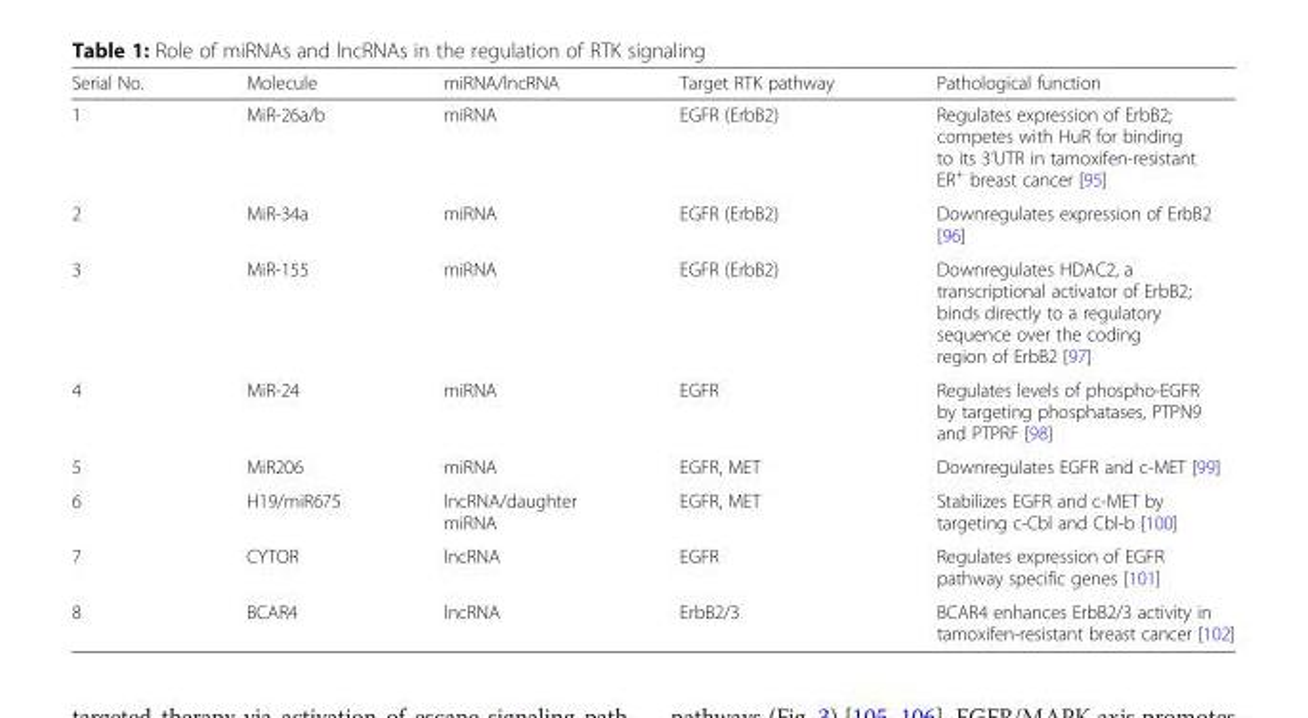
<table><thead><tr><td>Serial No.</td><td>Molecule</td><td>miRNA/lncRNA</td><td>Target RTK pathway</td><td>Pathological function</td></tr></thead><tbody><tr><td>1</td><td>MiR-26a/b</td><td>miRNA</td><td>EGFR (ErbB2)</td><td>Regulates expression of ErbB2; competes with HuR for binding to its 3’UTR in tamoxifen-resistant ER<sup>+</sup> breast cancer [95]</td></tr><tr><td>2</td><td>MiR-34a</td><td>miRNA</td><td>EGFR (ErbB2)</td><td>Downregulates expression of ErbB2 [96]</td></tr><tr><td>3</td><td>MiR-155</td><td>miRNA</td><td>EGFR (ErbB2)</td><td>Downregulates HDAC2, a transcriptional activator of ErbB2; binds directly to a regulatory sequence over the coding region of ErbB2 [97]</td></tr><tr><td>4</td><td>MiR-24</td><td>miRNA</td><td>EGFR</td><td>Regulates levels of phospho-EGFR by targeting phosphatases, PTPN9 and PTPRF [98]</td></tr><tr><td>5</td><td>MiR206</td><td>miRNA</td><td>EGFR, MET</td><td>Downregulates EGFR and c-MET [99]</td></tr><tr><td>6</td><td>H19/miR675</td><td>lncRNA/daughter miRNA</td><td>EGFR, MET</td><td>Stabilizes EGFR and c-MET by targeting c-Cbl and Cbl-b [100]</td></tr><tr><td>7</td><td>CYTOR</td><td>lncRNA</td><td>EGFR</td><td>Regulates expression of EGFR pathway specific genes [101]</td></tr><tr><td>8</td><td>BCAR4</td><td>lncRNA</td><td>ErbB2/3</td><td>BCAR4 enhances ErbB2/3 activity in tamoxifen-resistant breast cancer [102]</td></tr></tbody></table>